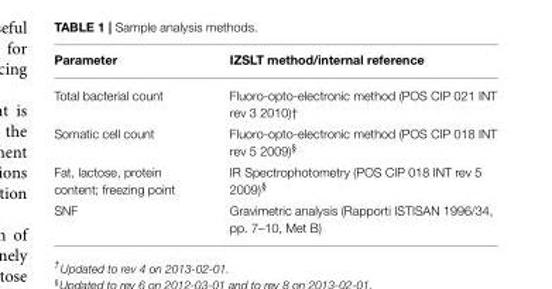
<table><thead><tr><td>Parameter</td><td>IZSLT method/internal reference</td></tr></thead><tbody><tr><td>Total bacterial count</td><td>Fluoro-opto-electronic method (POS CIP 021 INT rev 3 2010)†</td></tr><tr><td>Somatic cell count</td><td>Fluoro-opto-electronic method (POS CIP 018 INT rev 5 2009)<sup>§</sup></td></tr><tr><td>Fat, lactose, protein content; freezing point</td><td>IR Spectrophotometry (POS CIP 018 INT rev 5 2009)<sup>§</sup></td></tr><tr><td>SNF</td><td>Gravimetric analysis (Rapporti ISTISAN 1996/34, pp. 7–10, Met B)</td></tr></tbody></table>